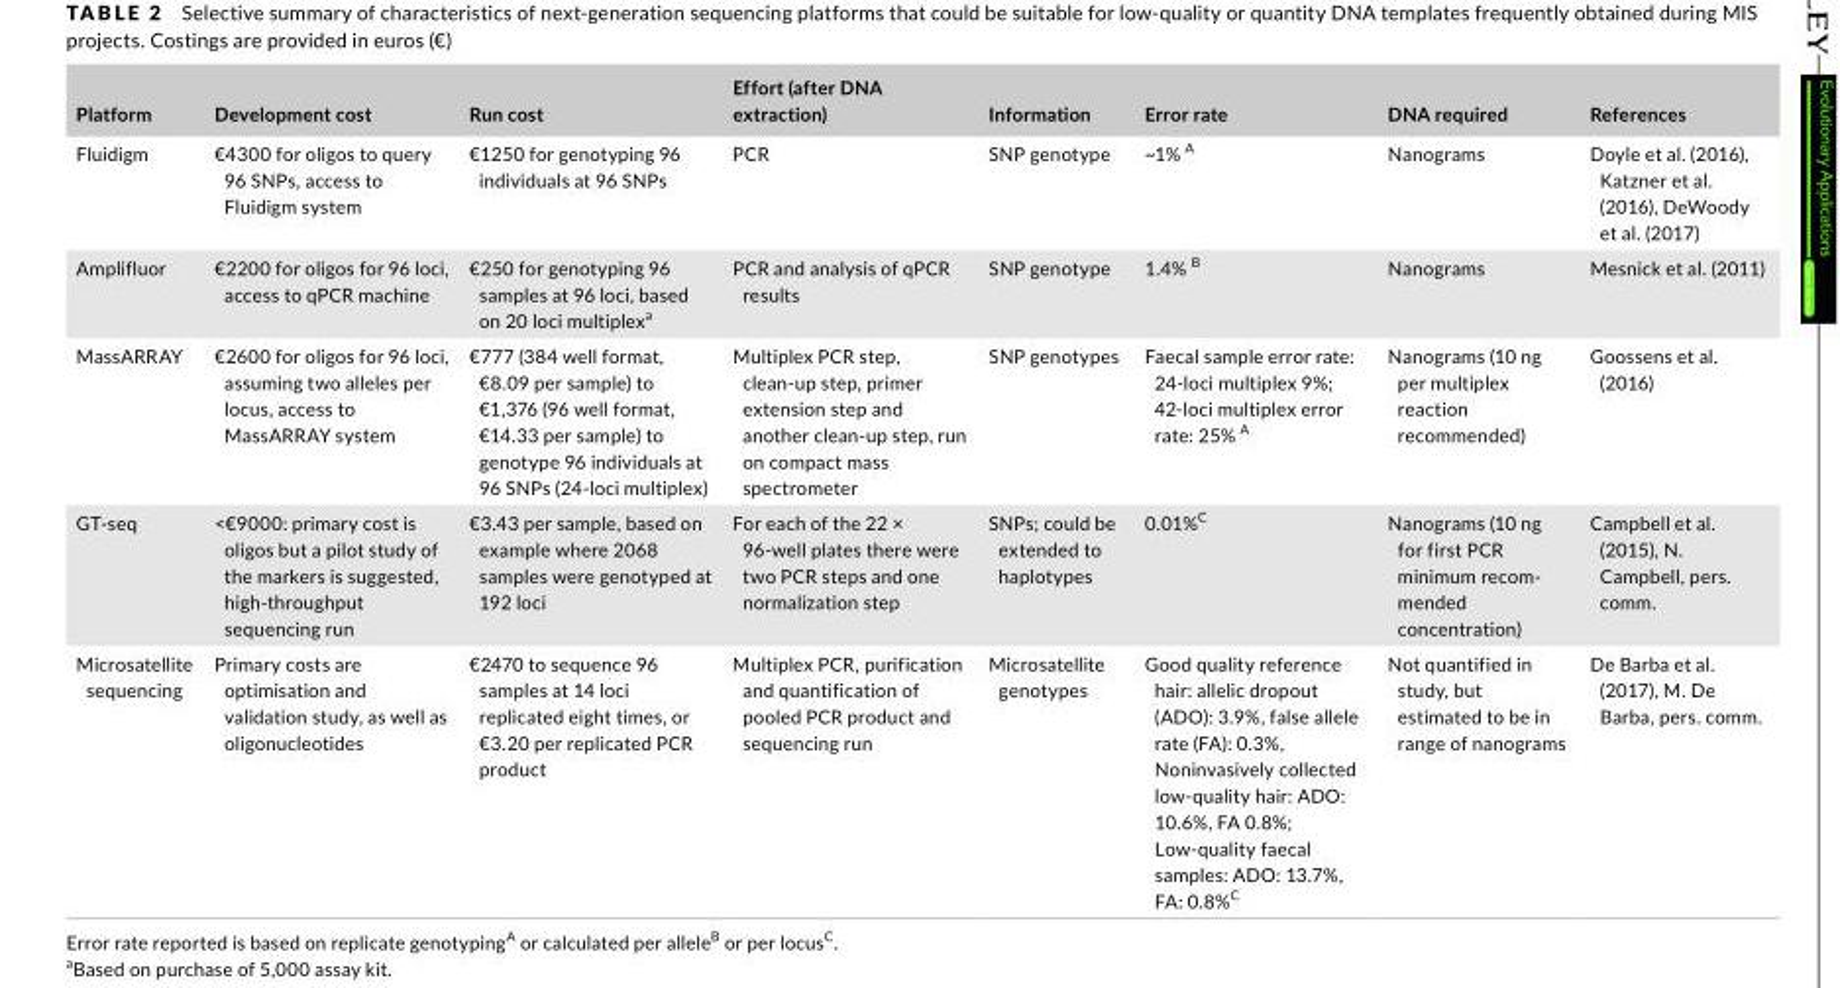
<table><thead><tr><td>Platform</td><td>Development cost</td><td>Run cost</td><td>Effort (after DNA extraction)</td><td>Information</td><td>Error rate</td><td>DNA required</td><td>References</td></tr></thead><tbody><tr><td>Fluidigm</td><td>€4300 for oligos to query 96 SNPs, access to Fluidigm system</td><td>€1250 for genotyping 96 individuals at 96 SNPs</td><td>PCR</td><td>SNP genotype</td><td>~1% <sup>A</sup></td><td>Nanograms</td><td>Doyle et al. (2016), Katzner et al. (2016), DeWoody et al. (2017)</td></tr><tr><td>Amplifluor</td><td>€2200 for oligos for 96 loci, access to qPCR machine</td><td>€250 for genotyping 96 samples at 96 loci, based on 20 loci multiplex<sup>a</sup></td><td>PCR and analysis of qPCR results</td><td>SNP genotype</td><td>1.4% <sup>B</sup></td><td>Nanograms</td><td>Mesnick et al. (2011)</td></tr><tr><td>MassARRAY</td><td>€2600 for oligos for 96 loci, assuming two alleles per locus, access to MassARRAY system</td><td>€777 (384 well format, €8.09 per sample) to €1,376 (96 well format, €14.33 per sample) to genotype 96 individuals at 96 SNPs (24- loci multiplex)</td><td>Multiplex PCR step, clean- up step, primer extension step and another clean- up step, run on compact mass spectrometer</td><td>SNP genotypes</td><td>Faecal sample error rate: 24- loci multiplex 9%; 42- loci multiplex error rate: 25% <sup>A</sup></td><td>Nanograms (10 ng per multiplex reaction recommended)</td><td>Goossens et al. (2016)</td></tr><tr><td>GT- seq</td><td>&lt;€9000: primary cost is oligos but a pilot study of the markers is suggested, high- throughput sequencing run</td><td>€3.43 per sample, based on example where 2068 samples were genotyped at 192 loci</td><td>For each of the 22 × 96- well plates there were two PCR steps and one normalization step</td><td>SNPs; could be extended to haplotypes</td><td>0.01%<sup>C</sup></td><td>Nanograms (10 ng for first PCR minimum recom- mended concentration)</td><td>Campbell et al. (2015), N. Campbell, pers. comm.</td></tr><tr><td>Microsatellite sequencing</td><td>Primary costs are optimisation and validation study, as well as oligonucleotides</td><td>€2470 to sequence 96 samples at 14 loci replicated eight times, or €3.20 per replicated PCR product</td><td>Multiplex PCR, purification and quantification of pooled PCR product and sequencing run</td><td>Microsatellite genotypes</td><td>Good quality reference hair: allelic dropout (ADO): 3.9%, false allele rate (FA): 0.3%, Noninvasively collected low- quality hair: ADO: 10.6%, FA 0.8%; Low- quality faecal samples: ADO: 13.7%, FA: 0.8%<sup>C</sup></td><td>Not quantified in study, but estimated to be in range of nanograms</td><td>De Barba et al. (2017), M. De Barba, pers. comm.</td></tr></tbody></table>